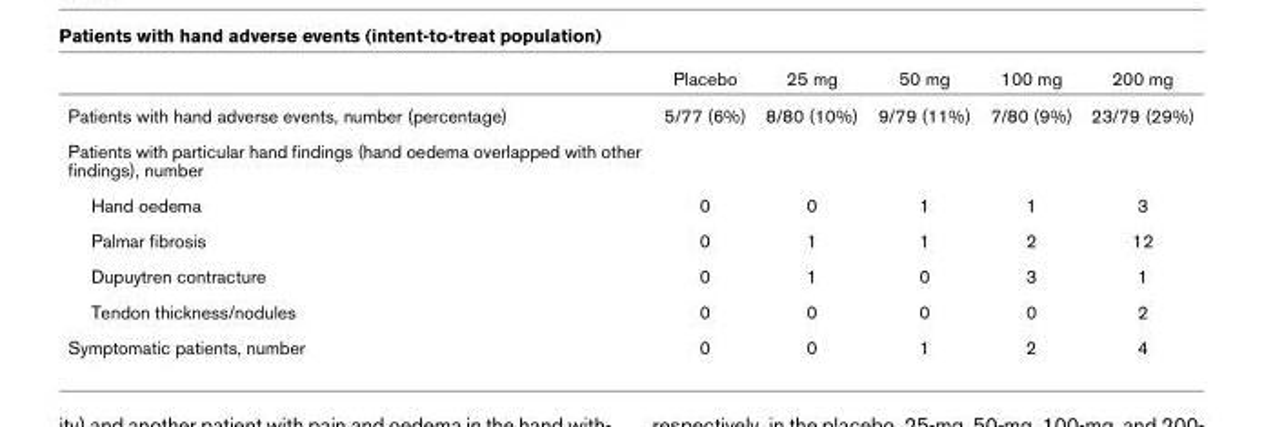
<table><thead><tr><td></td><td>Placebo</td><td>25 mg</td><td>50 mg</td><td>100 mg</td><td>200 mg</td></tr></thead><tbody><tr><td>Patients with hand adverse events, number (percentage)</td><td>5/77 (6%)</td><td>8/80 (10%)</td><td>9/79 (11%)</td><td>7/80 (9%)</td><td>23/79 (29%)</td></tr><tr><td colspan="6">Patients with particular hand findings (hand oedema overlapped with other findings), number</td></tr><tr><td>Hand oedema</td><td>0</td><td>0</td><td>1</td><td>1</td><td>3</td></tr><tr><td>Palmar fibrosis</td><td>0</td><td>1</td><td>1</td><td>2</td><td>12</td></tr><tr><td>Dupuytren contracture</td><td>0</td><td>1</td><td>0</td><td>3</td><td>1</td></tr><tr><td>Tendon thickness/nodules</td><td>0</td><td>0</td><td>0</td><td>0</td><td>2</td></tr><tr><td>Symptomatic patients, number</td><td>0</td><td>0</td><td>1</td><td>2</td><td>4</td></tr></tbody></table>